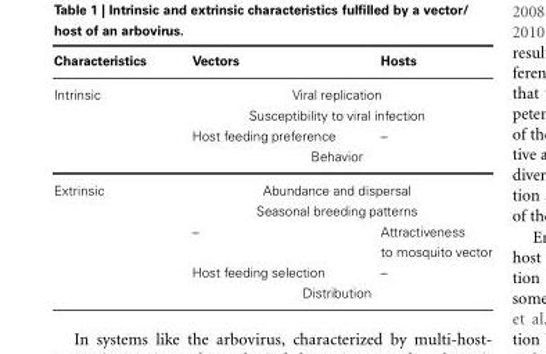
<table><thead><tr><td>Characteristics</td><td>Vectors</td><td>Hosts</td></tr></thead><tbody><tr><td rowspan="4">Intrinsic</td><td colspan="2">Viral replication</td></tr><tr><td colspan="2">Susceptibility to viral infection</td></tr><tr><td>Host feeding preference</td><td>–</td></tr><tr><td colspan="2">Behavior</td></tr><tr><td rowspan="5">Extrinsic</td><td colspan="2">Abundance and dispersal</td></tr><tr><td colspan="2">Seasonal breeding patterns</td></tr><tr><td>–</td><td>Attractiveness to mosquito vector</td></tr><tr><td>Host feeding selection</td><td>–</td></tr><tr><td colspan="2">Distribution</td></tr></tbody></table>